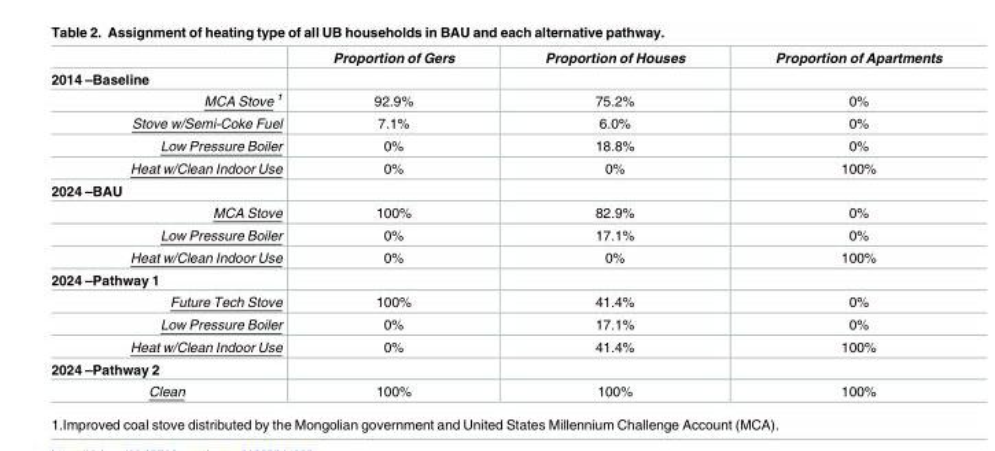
<table><thead><tr><td></td><td>Proportion of Gers</td><td>Proportion of Houses</td><td>Proportion of Apartments</td></tr></thead><tbody><tr><td colspan="4">2014 –Baseline</td></tr><tr><td>MCA Stove <sup>1</sup></td><td>92.9%</td><td>75.2%</td><td>0%</td></tr><tr><td>Stove w/Semi-Coke Fuel</td><td>7.1%</td><td>6.0%</td><td>0%</td></tr><tr><td>Low Pressure Boiler</td><td>0%</td><td>18.8%</td><td>0%</td></tr><tr><td>Heat w/Clean Indoor Use</td><td>0%</td><td>0%</td><td>100%</td></tr><tr><td colspan="4">2024 –BAU</td></tr><tr><td>MCA Stove</td><td>100%</td><td>82.9%</td><td>0%</td></tr><tr><td>Low Pressure Boiler</td><td>0%</td><td>17.1%</td><td>0%</td></tr><tr><td>Heat w/Clean Indoor Use</td><td>0%</td><td>0%</td><td>100%</td></tr><tr><td colspan="4">2024 –Pathway 1</td></tr><tr><td>Future Tech Stove</td><td>100%</td><td>41.4%</td><td>0%</td></tr><tr><td>Low Pressure Boiler</td><td>0%</td><td>17.1%</td><td>0%</td></tr><tr><td>Heat w/Clean Indoor Use</td><td>0%</td><td>41.4%</td><td>100%</td></tr><tr><td colspan="4">2024 –Pathway 2</td></tr><tr><td>Clean</td><td>100%</td><td>100%</td><td>100%</td></tr></tbody></table>